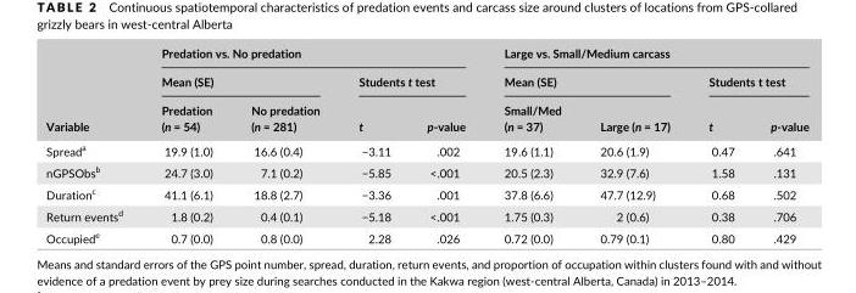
<table><thead><tr><td rowspan="3">Variable</td><td colspan="4">Predation vs. No predation</td><td colspan="4">Large vs. Small/Medium carcass</td></tr><tr><td colspan="2">Mean (SE)</td><td colspan="2">Students t test</td><td colspan="2">Mean (SE)</td><td colspan="2">Students t test</td></tr><tr><td>Predation (n = 54)</td><td>No predation (n = 281)</td><td>t</td><td>p- value</td><td>Small/Med (n = 37)</td><td>Large (n = 17)</td><td>t</td><td>p- value</td></tr></thead><tbody><tr><td>Spread<sup>a</sup></td><td>19.9 (1.0)</td><td>16.6 (0.4)</td><td>−3.11</td><td>.002</td><td>19.6 (1.1)</td><td>20.6 (1.9)</td><td>0.47</td><td>.641</td></tr><tr><td>nGPSObs<sup>b</sup></td><td>24.7 (3.0)</td><td>7.1 (0.2)</td><td>−5.85</td><td>&lt;.001</td><td>20.5 (2.3)</td><td>32.9 (7.6)</td><td>1.58</td><td>.131</td></tr><tr><td>Duration<sup>c</sup></td><td>41.1 (6.1)</td><td>18.8 (2.7)</td><td>−3.36</td><td>.001</td><td>37.8 (6.6)</td><td>47.7 (12.9)</td><td>0.68</td><td>.502</td></tr><tr><td>Return events<sup>d</sup></td><td>1.8 (0.2)</td><td>0.4 (0.1)</td><td>−5.18</td><td>&lt;.001</td><td>1.75 (0.3)</td><td>2 (0.6)</td><td>0.38</td><td>.706</td></tr><tr><td>Occupied<sup>e</sup></td><td>0.7 (0.0)</td><td>0.8 (0.0)</td><td>2.28</td><td>.026</td><td>0.72 (0.0)</td><td>0.79 (0.1)</td><td>0.80</td><td>.429</td></tr></tbody></table>